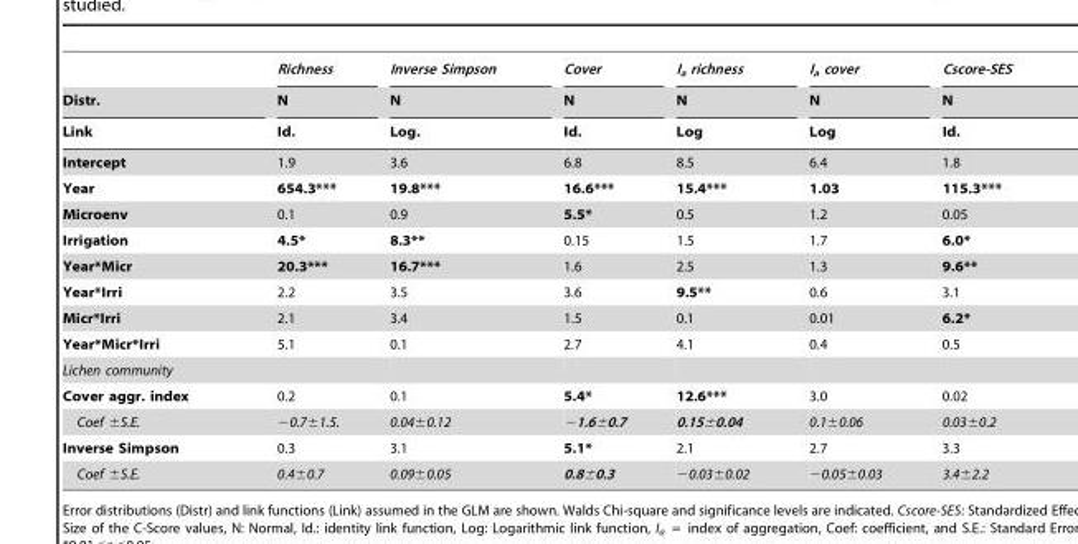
<table><thead><tr><td rowspan="3">Distr. Link</td><td rowspan="3">Richness N Id.</td><td rowspan="3">Inverse Simpson N Log.</td><td rowspan="3">Cover N Id.</td><td rowspan="3">I<sub>a</sub> richness N Log</td><td rowspan="3">I<sub>a</sub> cover N Log</td><td rowspan="3">Cscore-SES N Id.</td></tr><tr></tr><tr></tr></thead><tbody><tr><td>Intercept</td><td>1.9</td><td>3.6</td><td>6.8</td><td>8.5</td><td>6.4</td><td>1.8</td></tr><tr><td>Year</td><td>654.3***</td><td>19.8***</td><td>16.6***</td><td>15.4***</td><td>1.03</td><td>115.3***</td></tr><tr><td>Microenv</td><td>0.1</td><td>0.9</td><td>5.5*</td><td>0.5</td><td>1.2</td><td>0.05</td></tr><tr><td>Irrigation</td><td>4.5*</td><td>8.3**</td><td>0.15</td><td>1.5</td><td>1.7</td><td>6.0*</td></tr><tr><td>Year*Micr</td><td>20.3***</td><td>16.7***</td><td>1.6</td><td>2.5</td><td>1.3</td><td>9.6**</td></tr><tr><td>Year*Irri</td><td>2.2</td><td>3.5</td><td>3.6</td><td>9.5**</td><td>0.6</td><td>3.1</td></tr><tr><td>Micr*Irri</td><td>2.1</td><td>3.4</td><td>1.5</td><td>0.1</td><td>0.01</td><td>6.2*</td></tr><tr><td>Year*Micr*Irri</td><td>5.1</td><td>0.1</td><td>2.7</td><td>4.1</td><td>0.4</td><td>0.5</td></tr><tr><td colspan="7">Lichen community</td></tr><tr><td>Cover aggr. index</td><td>0.2</td><td>0.1</td><td>5.4*</td><td>12.6***</td><td>3.0</td><td>0.02</td></tr><tr><td>Coef ±S.E.</td><td>−0.7±1.5.</td><td>0.04±0.12</td><td>−1.6±0.7</td><td>0.15±0.04</td><td>0.1±0.06</td><td>0.03±0.2</td></tr><tr><td>Inverse Simpson</td><td>0.3</td><td>3.1</td><td>5.1*</td><td>2.1</td><td>2.7</td><td>3.3</td></tr><tr><td>Coef ±S.E.</td><td>0.4±0.7</td><td>0.09±0.05</td><td>0.8±0.3</td><td>−0.03±0.02</td><td>−0.05±0.03</td><td>3.4±2.2</td></tr></tbody></table>